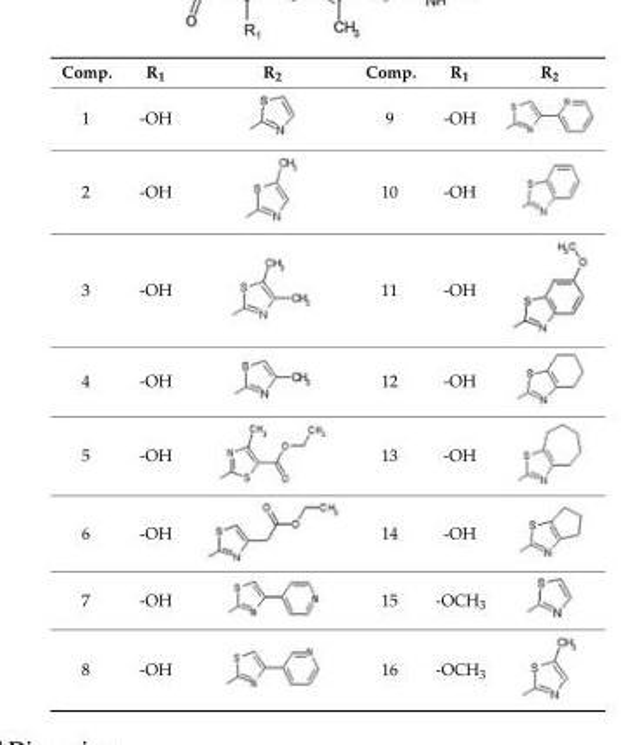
<table><thead><tr><td>Comp.</td><td>R1</td><td>R2</td><td>Comp.</td><td>R1</td><td>R2</td></tr></thead><tbody><tr><td>1</td><td>-OH</td><td></td><td>9</td><td>-OH</td><td></td></tr><tr><td>2</td><td>-OH</td><td></td><td>10</td><td>-OH</td><td></td></tr><tr><td>3</td><td>-OH</td><td></td><td>11</td><td>-OH</td><td></td></tr><tr><td>4</td><td>-OH</td><td></td><td>12</td><td>-OH</td><td></td></tr><tr><td>5</td><td>-OH</td><td></td><td>13</td><td>-OH</td><td></td></tr><tr><td>6</td><td>-OH</td><td></td><td>14</td><td>-OH</td><td></td></tr><tr><td>7</td><td>-OH</td><td></td><td>15</td><td>-OCH3</td><td></td></tr><tr><td>8</td><td>-OH</td><td></td><td>16</td><td>-OCH3</td><td></td></tr></tbody></table>